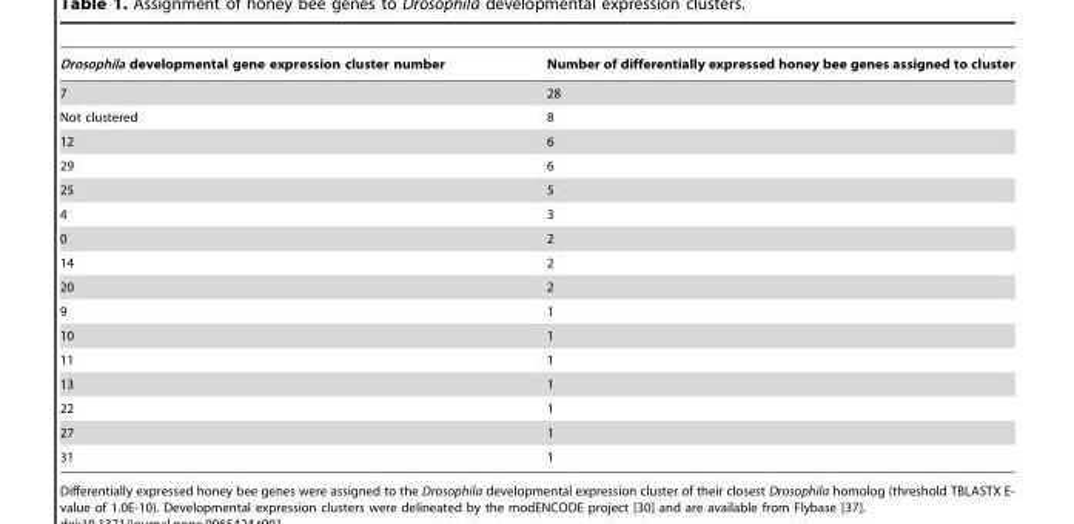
<table><thead><tr><td>Drosophila developmental gene expression cluster number</td><td>Number of differentially expressed honey bee genes assigned to cluster</td></tr></thead><tbody><tr><td>7</td><td>28</td></tr><tr><td>Not clustered</td><td>8</td></tr><tr><td>12</td><td>6</td></tr><tr><td>29</td><td>6</td></tr><tr><td>25</td><td>5</td></tr><tr><td>4</td><td>3</td></tr><tr><td>0</td><td>2</td></tr><tr><td>14</td><td>2</td></tr><tr><td>20</td><td>2</td></tr><tr><td>9</td><td>1</td></tr><tr><td>10</td><td>1</td></tr><tr><td>11</td><td>1</td></tr><tr><td>13</td><td>1</td></tr><tr><td>22</td><td>1</td></tr><tr><td>27</td><td>1</td></tr><tr><td>31</td><td>1</td></tr></tbody></table>